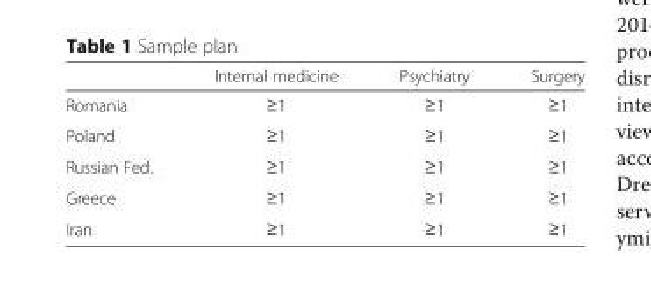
<table><thead><tr><td></td><td>Internal medicine</td><td>Psychiatry</td><td>Surgery</td></tr></thead><tbody><tr><td>Romania</td><td>≥1</td><td>≥1</td><td>≥1</td></tr><tr><td>Poland</td><td>≥1</td><td>≥1</td><td>≥1</td></tr><tr><td>Russian Fed.</td><td>≥1</td><td>≥1</td><td>≥1</td></tr><tr><td>Greece</td><td>≥1</td><td>≥1</td><td>≥1</td></tr><tr><td>Iran</td><td>≥1</td><td>≥1</td><td>≥1</td></tr></tbody></table>